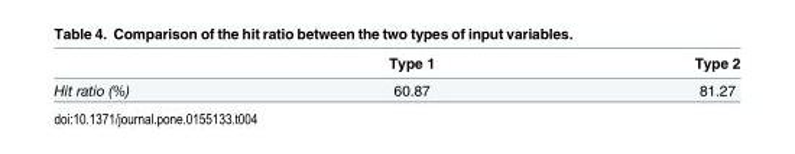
<table><thead><tr><td></td><td>Type 1</td><td>Type 2</td></tr></thead><tbody><tr><td>Hit ratio (%)</td><td>60.87</td><td>81.27</td></tr></tbody></table>